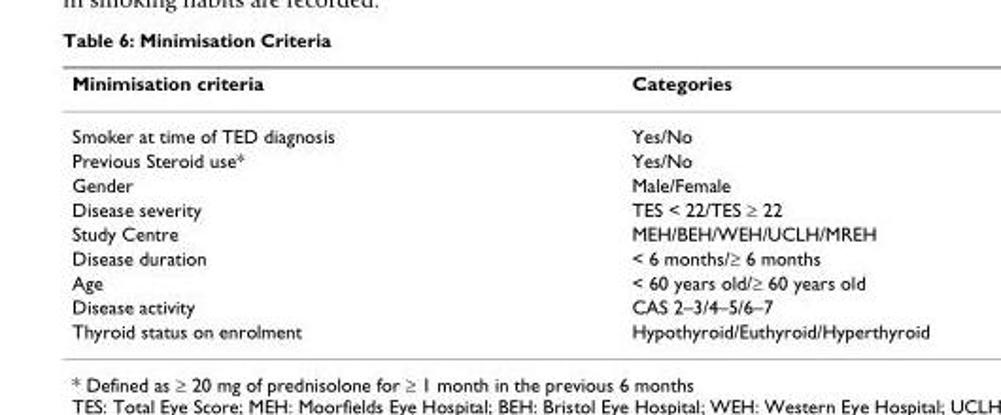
<table><thead><tr><td>Minimisation criteria</td><td>Categories</td></tr></thead><tbody><tr><td>Smoker at time of TED diagnosis</td><td>Yes/No</td></tr><tr><td>Previous Steroid use*</td><td>Yes/No</td></tr><tr><td>Gender</td><td>Male/Female</td></tr><tr><td>Disease severity</td><td>TES &lt; 22/TES ≥ 22</td></tr><tr><td>Study Centre</td><td>MEH/BEH/WEH/UCLH/MREH</td></tr><tr><td>Disease duration</td><td>&lt; 6 months/≥ 6 months</td></tr><tr><td>Age</td><td>&lt; 60 years old/≥ 60 years old</td></tr><tr><td>Disease activity</td><td>CAS 2–3/4–5/6–7</td></tr><tr><td>Thyroid status on enrolment</td><td>Hypothyroid/Euthyroid/Hyperthyroid</td></tr></tbody></table>